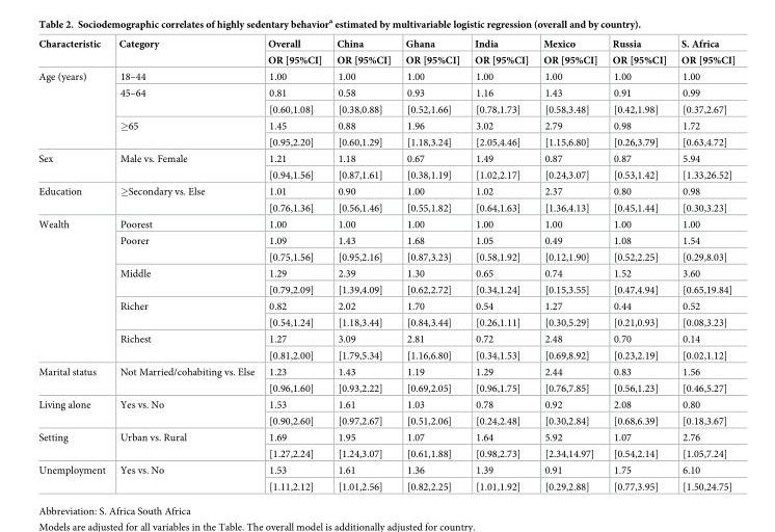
<table><thead><tr><td rowspan="2">Characteristic</td><td rowspan="2">Category</td><td rowspan="2">Overall OR [95%CI]</td><td rowspan="2">China OR [95%CI]</td><td rowspan="2">Ghana OR [95%CI]</td><td rowspan="2">India OR [95%CI]</td><td rowspan="2">Mexico OR [95%CI]</td><td rowspan="2">Russia OR [95%CI]</td><td rowspan="2">S. Africa OR [95%CI]</td></tr><tr></tr></thead><tbody><tr><td rowspan="5">Age (years)</td><td>18–44</td><td>1.00</td><td>1.00</td><td>1.00</td><td>1.00</td><td>1.00</td><td>1.00</td><td>1.00</td></tr><tr><td rowspan="2">45–64</td><td>0.81</td><td>0.58</td><td>0.93</td><td>1.16</td><td>1.43</td><td>0.91</td><td>0.99</td></tr><tr><td>[0.60,1.08]</td><td>[0.38,0.88]</td><td>[0.52,1.66]</td><td>[0.78,1.73]</td><td>[0.58,3.48]</td><td>[0.42,1.98]</td><td>[0.37,2.67]</td></tr><tr><td rowspan="2">≥65</td><td>1.45</td><td>0.88</td><td>1.96</td><td>3.02</td><td>2.79</td><td>0.98</td><td>1.72</td></tr><tr><td>[0.95,2.20]</td><td>[0.60,1.29]</td><td>[1.18,3.24]</td><td>[2.05,4.46]</td><td>[1.15,6.80]</td><td>[0.26,3.79]</td><td>[0.63,4.72]</td></tr><tr><td rowspan="2">Sex</td><td rowspan="2">Male vs. Female</td><td>1.21</td><td>1.18</td><td>0.67</td><td>1.49</td><td>0.87</td><td>0.87</td><td>5.94</td></tr><tr><td>[0.94,1.56]</td><td>[0.87,1.61]</td><td>[0.38,1.19]</td><td>[1.02,2.17]</td><td>[0.24,3.07]</td><td>[0.53,1.42]</td><td>[1.33,26.52]</td></tr><tr><td rowspan="2">Education</td><td rowspan="2">≥Secondary vs. Else</td><td>1.01</td><td>0.90</td><td>1.00</td><td>1.02</td><td>2.37</td><td>0.80</td><td>0.98</td></tr><tr><td>[0.76,1.36]</td><td>[0.56,1.46]</td><td>[0.55,1.82]</td><td>[0.64,1.63]</td><td>[1.36,4.13]</td><td>[0.45,1.44]</td><td>[0.30,3.23]</td></tr><tr><td rowspan="9">Wealth</td><td>Poorest</td><td>1.00</td><td>1.00</td><td>1.00</td><td>1.00</td><td>1.00</td><td>1.00</td><td>1.00</td></tr><tr><td rowspan="2">Poorer</td><td>1.09</td><td>1.43</td><td>1.68</td><td>1.05</td><td>0.49</td><td>1.08</td><td>1.54</td></tr><tr><td>[0.75,1.56]</td><td>[0.95,2.16]</td><td>[0.87,3.23]</td><td>[0.58,1.92]</td><td>[0.12,1.90]</td><td>[0.52,2.25]</td><td>[0.29,8.03]</td></tr><tr><td rowspan="2">Middle</td><td>1.29</td><td>2.39</td><td>1.30</td><td>0.65</td><td>0.74</td><td>1.52</td><td>3.60</td></tr><tr><td>[0.79,2.09]</td><td>[1.39,4.09]</td><td>[0.62,2.72]</td><td>[0.34,1.24]</td><td>[0.15,3.55]</td><td>[0.47,4.94]</td><td>[0.65,19.84]</td></tr><tr><td rowspan="2">Richer</td><td>0.82</td><td>2.02</td><td>1.70</td><td>0.54</td><td>1.27</td><td>0.44</td><td>0.52</td></tr><tr><td>[0.54,1.24]</td><td>[1.18,3.44]</td><td>[0.84,3.44]</td><td>[0.26,1.11]</td><td>[0.30,5.29]</td><td>[0.21,0.93]</td><td>[0.08,3.23]</td></tr><tr><td rowspan="2">Richest</td><td>1.27</td><td>3.09</td><td>2.81</td><td>0.72</td><td>2.48</td><td>0.70</td><td>0.14</td></tr><tr><td>[0.81,2.00]</td><td>[1.79,5.34]</td><td>[1.16,6.80]</td><td>[0.34,1.53]</td><td>[0.69,8.92]</td><td>[0.23,2.19]</td><td>[0.02,1.12]</td></tr><tr><td rowspan="2">Marital status</td><td rowspan="2">Not Married/cohabiting vs. Else</td><td>1.23</td><td>1.43</td><td>1.19</td><td>1.29</td><td>2.44</td><td>0.83</td><td>1.56</td></tr><tr><td>[0.96,1.60]</td><td>[0.93,2.22]</td><td>[0.69,2.05]</td><td>[0.96,1.75]</td><td>[0.76,7.85]</td><td>[0.56,1.23]</td><td>[0.46,5.27]</td></tr><tr><td rowspan="2">Living alone</td><td rowspan="2">Yes vs. No</td><td>1.53</td><td>1.61</td><td>1.03</td><td>0.78</td><td>0.92</td><td>2.08</td><td>0.80</td></tr><tr><td>[0.90,2.60]</td><td>[0.97,2.67]</td><td>[0.51,2.06]</td><td>[0.24,2.48]</td><td>[0.30,2.84]</td><td>[0.68,6.39]</td><td>[0.18,3.67]</td></tr><tr><td rowspan="2">Setting</td><td rowspan="2">Urban vs. Rural</td><td>1.69</td><td>1.95</td><td>1.07</td><td>1.64</td><td>5.92</td><td>1.07</td><td>2.76</td></tr><tr><td>[1.27,2.24]</td><td>[1.24,3.07]</td><td>[0.61,1.88]</td><td>[0.98,2.73]</td><td>[2.34,14.97]</td><td>[0.54,2.14]</td><td>[1.05,7.24]</td></tr><tr><td rowspan="2">Unemployment</td><td rowspan="2">Yes vs. No</td><td>1.53</td><td>1.61</td><td>1.36</td><td>1.39</td><td>0.91</td><td>1.75</td><td>6.10</td></tr><tr><td>[1.11,2.12]</td><td>[1.01,2.56]</td><td>[0.82,2.25]</td><td>[1.01,1.92]</td><td>[0.29,2.88]</td><td>[0.77,3.95]</td><td>[1.50,24.75]</td></tr></tbody></table>